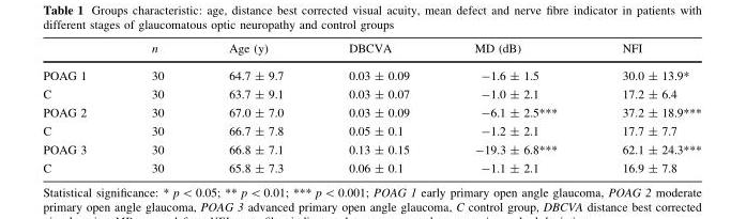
<table><thead><tr><td></td><td>n</td><td>Age (y)</td><td>DBCVA</td><td>MD (dB)</td><td>NFI</td></tr></thead><tbody><tr><td>POAG 1</td><td>30</td><td>64.7 ± 9.7</td><td>0.03 ± 0.09</td><td>-1.6 ± 1.5</td><td>30.0 ± 13.9*</td></tr><tr><td>C</td><td>30</td><td>63.7 ± 9.1</td><td>0.03 ± 0.07</td><td>-1.0 ± 2.1</td><td>17.2 ± 6.4</td></tr><tr><td>POAG 2</td><td>30</td><td>67.0 ± 7.0</td><td>0.03 ± 0.09</td><td>-6.1 ± 2.5***</td><td>37.2 ± 18.9***</td></tr><tr><td>C</td><td>30</td><td>66.7 ± 7.8</td><td>0.05 ± 0.1</td><td>-1.2 ± 2.1</td><td>17.7 ± 7.7</td></tr><tr><td>POAG 3</td><td>30</td><td>66.8 ± 7.1</td><td>0.13 ± 0.15</td><td>-19.3 ± 6.8***</td><td>62.1 ± 24.3***</td></tr><tr><td>C</td><td>30</td><td>65.8 ± 7.3</td><td>0.06 ± 0.1</td><td>-1.1 ± 2.1</td><td>16.9 ± 7.8</td></tr></tbody></table>